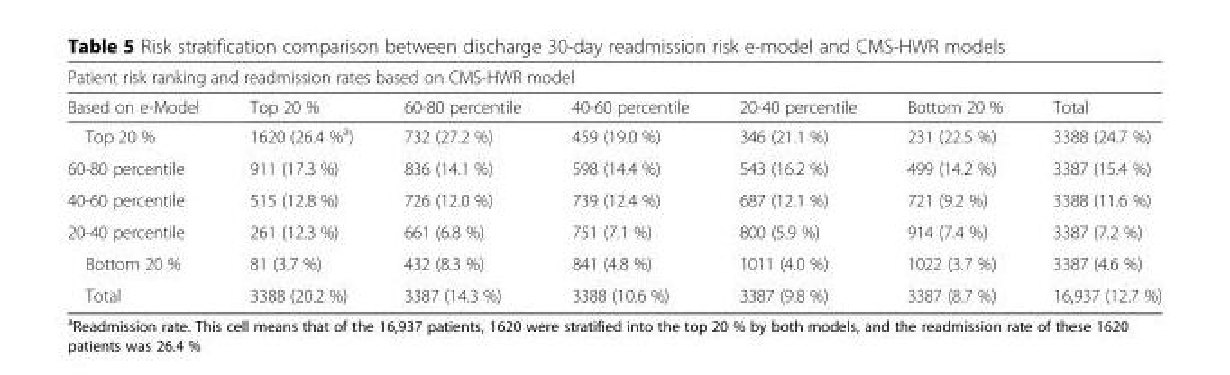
<table><thead><tr><td colspan="7">Patient risk ranking and readmission rates based on CMS-HWR model</td></tr><tr><td>Based on e-Model</td><td>Top 20 %</td><td>60-80 percentile</td><td>40-60 percentile</td><td>20-40 percentile</td><td>Bottom 20 %</td><td>Total</td></tr></thead><tbody><tr><td>Top 20 %</td><td>1620 (26.4 %<sup>a</sup>)</td><td>732 (27.2 %)</td><td>459 (19.0 %)</td><td>346 (21.1 %)</td><td>231 (22.5 %)</td><td>3388 (24.7 %)</td></tr><tr><td>60-80 percentile</td><td>911 (17.3 %)</td><td>836 (14.1 %)</td><td>598 (14.4 %)</td><td>543 (16.2 %)</td><td>499 (14.2 %)</td><td>3387 (15.4 %)</td></tr><tr><td>40-60 percentile</td><td>515 (12.8 %)</td><td>726 (12.0 %)</td><td>739 (12.4 %)</td><td>687 (12.1 %)</td><td>721 (9.2 %)</td><td>3388 (11.6 %)</td></tr><tr><td>20-40 percentile</td><td>261 (12.3 %)</td><td>661 (6.8 %)</td><td>751 (7.1 %)</td><td>800 (5.9 %)</td><td>914 (7.4 %)</td><td>3387 (7.2 %)</td></tr><tr><td>Bottom 20 %</td><td>81 (3.7 %)</td><td>432 (8.3 %)</td><td>841 (4.8 %)</td><td>1011 (4.0 %)</td><td>1022 (3.7 %)</td><td>3387 (4.6 %)</td></tr><tr><td>Total</td><td>3388 (20.2 %)</td><td>3387 (14.3 %)</td><td>3388 (10.6 %)</td><td>3387 (9.8 %)</td><td>3387 (8.7 %)</td><td>16,937 (12.7 %)</td></tr></tbody></table>